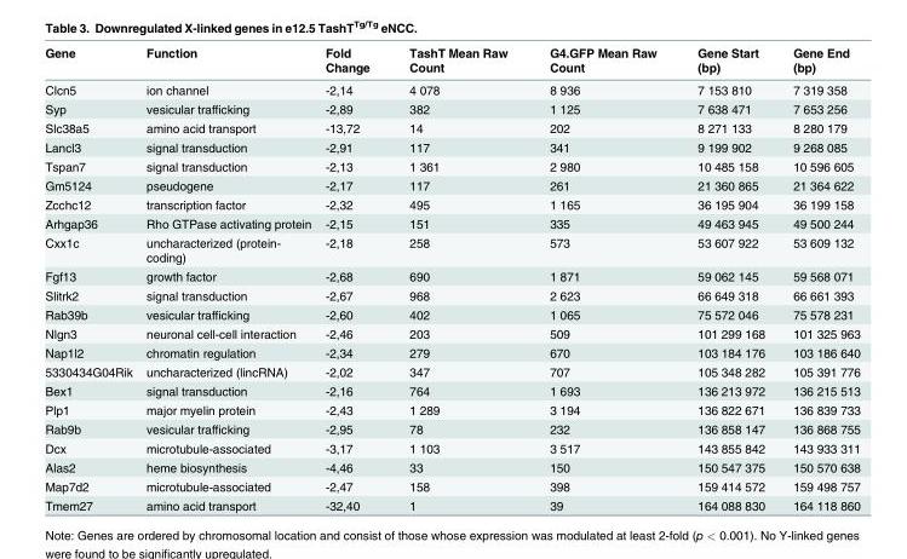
<table><thead><tr><td>Gene</td><td>Function</td><td>Fold Change</td><td>TashT Mean Raw Count</td><td>G4.GFP Mean Raw Count</td><td>Gene Start (bp)</td><td>Gene End (bp)</td></tr></thead><tbody><tr><td>Clcn5</td><td>ion channel</td><td>-2,14</td><td>4 078</td><td>8 936</td><td>7 153 810</td><td>7 319 358</td></tr><tr><td>Syp</td><td>vesicular trafficking</td><td>-2,89</td><td>382</td><td>1 125</td><td>7 638 471</td><td>7 653 256</td></tr><tr><td>Slc38a5</td><td>amino acid transport</td><td>-13,72</td><td>14</td><td>202</td><td>8 271 133</td><td>8 280 179</td></tr><tr><td>Lancl3</td><td>signal transduction</td><td>-2,91</td><td>117</td><td>341</td><td>9 199 902</td><td>9 268 085</td></tr><tr><td>Tspan7</td><td>signal transduction</td><td>-2,13</td><td>1 361</td><td>2 980</td><td>10 485 158</td><td>10 596 605</td></tr><tr><td>Gm5124</td><td>pseudogene</td><td>-2,17</td><td>117</td><td>261</td><td>21 360 865</td><td>21 364 622</td></tr><tr><td>Zcchc12</td><td>transcription factor</td><td>-2,32</td><td>495</td><td>1 165</td><td>36 195 904</td><td>36 199 158</td></tr><tr><td>Arhgap36</td><td>Rho GTPase activating protein</td><td>-2,15</td><td>151</td><td>335</td><td>49 463 945</td><td>49 500 244</td></tr><tr><td>Cxx1c</td><td>uncharacterized (protein- coding)</td><td>-2,18</td><td>258</td><td>573</td><td>53 607 922</td><td>53 609 132</td></tr><tr><td>Fgf13</td><td>growth factor</td><td>-2,68</td><td>690</td><td>1 871</td><td>59 062 145</td><td>59 568 071</td></tr><tr><td>Slitrk2</td><td>signal transduction</td><td>-2,67</td><td>968</td><td>2 623</td><td>66 649 318</td><td>66 661 393</td></tr><tr><td>Rab39b</td><td>vesicular trafficking</td><td>-2,60</td><td>402</td><td>1 065</td><td>75 572 046</td><td>75 578 231</td></tr><tr><td>Nlgn3</td><td>neuronal cell-cell interaction</td><td>-2,46</td><td>203</td><td>509</td><td>101 299 168</td><td>101 325 963</td></tr><tr><td>Nap1l2</td><td>chromatin regulation</td><td>-2,34</td><td>279</td><td>670</td><td>103 184 176</td><td>103 186 640</td></tr><tr><td>5330434G04Rik</td><td>uncharacterized (lincRNA)</td><td>-2,02</td><td>347</td><td>707</td><td>105 348 282</td><td>105 391 776</td></tr><tr><td>Bex1</td><td>signal transduction</td><td>-2,16</td><td>764</td><td>1 693</td><td>136 213 972</td><td>136 215 513</td></tr><tr><td>Plp1</td><td>major myelin protein</td><td>-2,43</td><td>1 289</td><td>3 194</td><td>136 822 671</td><td>136 839 733</td></tr><tr><td>Rab9b</td><td>vesicular trafficking</td><td>-2,95</td><td>78</td><td>232</td><td>136 858 147</td><td>136 868 755</td></tr><tr><td>Dcx</td><td>microtubule-associated</td><td>-3,17</td><td>1 103</td><td>3 517</td><td>143 855 842</td><td>143 933 311</td></tr><tr><td>Alas2</td><td>heme biosynthesis</td><td>-4,46</td><td>33</td><td>150</td><td>150 547 375</td><td>150 570 638</td></tr><tr><td>Map7d2</td><td>microtubule-associated</td><td>-2,47</td><td>158</td><td>398</td><td>159 414 572</td><td>159 498 757</td></tr><tr><td>Tmem27</td><td>amino acid transport</td><td>-32,40</td><td>1</td><td>39</td><td>164 088 830</td><td>164 118 860</td></tr></tbody></table>